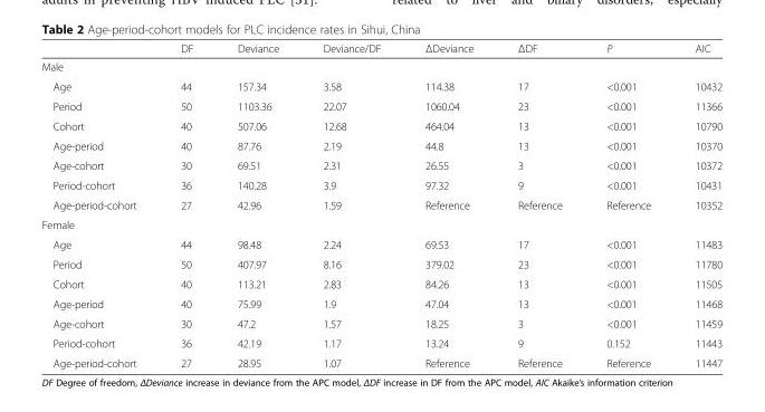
<table><thead><tr><td></td><td>DF</td><td>Deviance</td><td>Deviance/DF</td><td>ΔDeviance</td><td>ΔDF</td><td>P</td><td>AIC</td></tr></thead><tbody><tr><td colspan="8">Male</td></tr><tr><td>Age</td><td>44</td><td>157.34</td><td>3.58</td><td>114.38</td><td>17</td><td>&lt;0.001</td><td>10432</td></tr><tr><td>Period</td><td>50</td><td>1103.36</td><td>22.07</td><td>1060.04</td><td>23</td><td>&lt;0.001</td><td>11366</td></tr><tr><td>Cohort</td><td>40</td><td>507.06</td><td>12.68</td><td>464.04</td><td>13</td><td>&lt;0.001</td><td>10790</td></tr><tr><td>Age-period</td><td>40</td><td>87.76</td><td>2.19</td><td>44.8</td><td>13</td><td>&lt;0.001</td><td>10370</td></tr><tr><td>Age-cohort</td><td>30</td><td>69.51</td><td>2.31</td><td>26.55</td><td>3</td><td>&lt;0.001</td><td>10372</td></tr><tr><td>Period-cohort</td><td>36</td><td>140.28</td><td>3.9</td><td>97.32</td><td>9</td><td>&lt;0.001</td><td>10431</td></tr><tr><td>Age-period-cohort</td><td>27</td><td>42.96</td><td>1.59</td><td>Reference</td><td>Reference</td><td>Reference</td><td>10352</td></tr><tr><td colspan="8">Female</td></tr><tr><td>Age</td><td>44</td><td>98.48</td><td>2.24</td><td>69.53</td><td>17</td><td>&lt;0.001</td><td>11483</td></tr><tr><td>Period</td><td>50</td><td>407.97</td><td>8.16</td><td>379.02</td><td>23</td><td>&lt;0.001</td><td>11780</td></tr><tr><td>Cohort</td><td>40</td><td>113.21</td><td>2.83</td><td>84.26</td><td>13</td><td>&lt;0.001</td><td>11505</td></tr><tr><td>Age-period</td><td>40</td><td>75.99</td><td>1.9</td><td>47.04</td><td>13</td><td>&lt;0.001</td><td>11468</td></tr><tr><td>Age-cohort</td><td>30</td><td>47.2</td><td>1.57</td><td>18.25</td><td>3</td><td>&lt;0.001</td><td>11459</td></tr><tr><td>Period-cohort</td><td>36</td><td>42.19</td><td>1.17</td><td>13.24</td><td>9</td><td>0.152</td><td>11443</td></tr><tr><td>Age-period-cohort</td><td>27</td><td>28.95</td><td>1.07</td><td>Reference</td><td>Reference</td><td>Reference</td><td>11447</td></tr></tbody></table>